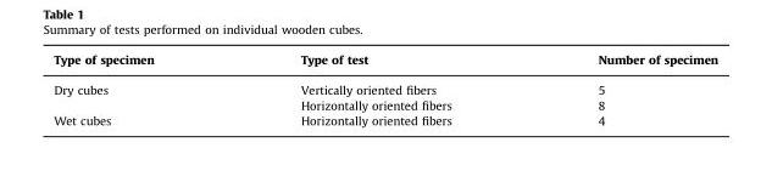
<table><thead><tr><td>Type of specimen</td><td>Type of test</td><td>Number of specimen</td></tr></thead><tbody><tr><td rowspan="2">Dry cubes</td><td>Vertically oriented fibers</td><td>5</td></tr><tr><td>Horizontally oriented fibers</td><td>8</td></tr><tr><td>Wet cubes</td><td>Horizontally oriented fibers</td><td>4</td></tr></tbody></table>